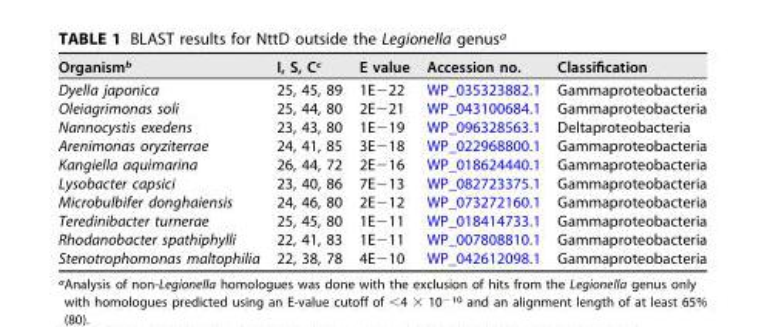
<table><thead><tr><td>Organism<sup>b</sup></td><td>I, S, C<sup>c</sup></td><td>E value</td><td>Accession no.</td><td>Classification</td></tr></thead><tbody><tr><td>Dyella japonica</td><td>25, 45, 89</td><td>1E−22</td><td>WP_035323882.1</td><td>Gammaproteobacteria</td></tr><tr><td>Oleiagrimonas soli</td><td>25, 44, 80</td><td>2E−21</td><td>WP_043100684.1</td><td>Gammaproteobacteria</td></tr><tr><td>Nannocystis exedens</td><td>23, 43, 80</td><td>1E−19</td><td>WP_096328563.1</td><td>Deltaproteobacteria</td></tr><tr><td>Arenimonas oryziterrae</td><td>24, 41, 85</td><td>3E−18</td><td>WP_022968800.1</td><td>Gammaproteobacteria</td></tr><tr><td>Kangiella aquimarina</td><td>26, 44, 72</td><td>2E−16</td><td>WP_018624440.1</td><td>Gammaproteobacteria</td></tr><tr><td>Lysobacter capsici</td><td>23, 40, 86</td><td>7E−13</td><td>WP_082723375.1</td><td>Gammaproteobacteria</td></tr><tr><td>Microbulbifer donghaiensis</td><td>24, 46, 80</td><td>2E−12</td><td>WP_073272160.1</td><td>Gammaproteobacteria</td></tr><tr><td>Teredinibacter turnerae</td><td>25, 45, 80</td><td>1E−11</td><td>WP_018414733.1</td><td>Gammaproteobacteria</td></tr><tr><td>Rhodanobacter spathiphylli</td><td>22, 41, 83</td><td>1E−11</td><td>WP_007808810.1</td><td>Gammaproteobacteria</td></tr><tr><td>Stenotrophomonas maltophilia</td><td>22, 38, 78</td><td>4E−10</td><td>WP_042612098.1</td><td>Gammaproteobacteria</td></tr></tbody></table>